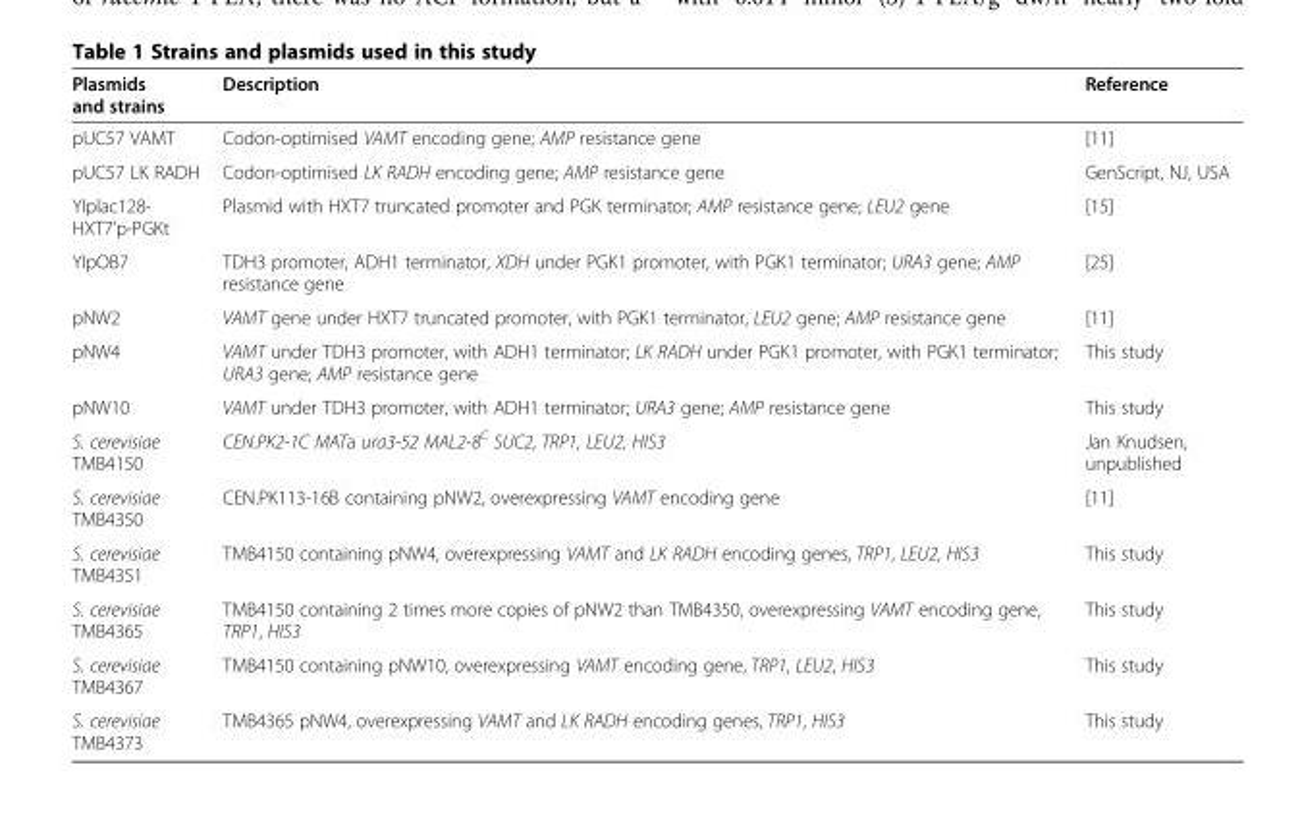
<table><thead><tr><td>Plasmids and strains</td><td>Description</td><td>Reference</td></tr></thead><tbody><tr><td>pUC57 VAMT</td><td>Codon-optimised VAMT encoding gene; AMP resistance gene</td><td>[11]</td></tr><tr><td>pUC57 LK RADH</td><td>Codon-optimised LK RADH encoding gene; AMP resistance gene</td><td>GenScript, NJ, USA</td></tr><tr><td>YIplac128- HXT7’p-PGKt</td><td>Plasmid with HXT7 truncated promoter and PGK terminator; AMP resistance gene; LEU2 gene</td><td>[15]</td></tr><tr><td>YIpOB7</td><td>TDH3 promoter, ADH1 terminator, XDH under PGK1 promoter, with PGK1 terminator; URA3 gene; AMP resistance gene</td><td>[25]</td></tr><tr><td>pNW2</td><td>VAMT gene under HXT7 truncated promoter, with PGK1 terminator, LEU2 gene; AMP resistance gene</td><td>[11]</td></tr><tr><td>pNW4</td><td>VAMT under TDH3 promoter, with ADH1 terminator; LK RADH under PGK1 promoter, with PGK1 terminator; URA3 gene; AMP resistance gene</td><td>This study</td></tr><tr><td>pNW10</td><td>VAMT under TDH3 promoter, with ADH1 terminator; URA3 gene; AMP resistance gene</td><td>This study</td></tr><tr><td>S. cerevisiae TMB4150</td><td>CEN.PK2-1C MATa ura3-52 MAL2-8<sup>C</sup> SUC2, TRP1, LEU2, HIS3</td><td>Jan Knudsen, unpublished</td></tr><tr><td>S. cerevisiae TMB4350</td><td>CEN.PK113-16B containing pNW2, overexpressing VAMT encoding gene</td><td>[11]</td></tr><tr><td>S. cerevisiae TMB4351</td><td>TMB4150 containing pNW4, overexpressing VAMT and LK RADH encoding genes, TRP1, LEU2, HIS3</td><td>This study</td></tr><tr><td>S. cerevisiae TMB4365</td><td>TMB4150 containing 2 times more copies of pNW2 than TMB4350, overexpressing VAMT encoding gene, TRP1, HIS3</td><td>This study</td></tr><tr><td>S. cerevisiae TMB4367</td><td>TMB4150 containing pNW10, overexpressing VAMT encoding gene, TRP1, LEU2, HIS3</td><td>This study</td></tr><tr><td>S. cerevisiae TMB4373</td><td>TMB4365 pNW4, overexpressing VAMT and LK RADH encoding genes, TRP1, HIS3</td><td>This study</td></tr></tbody></table>